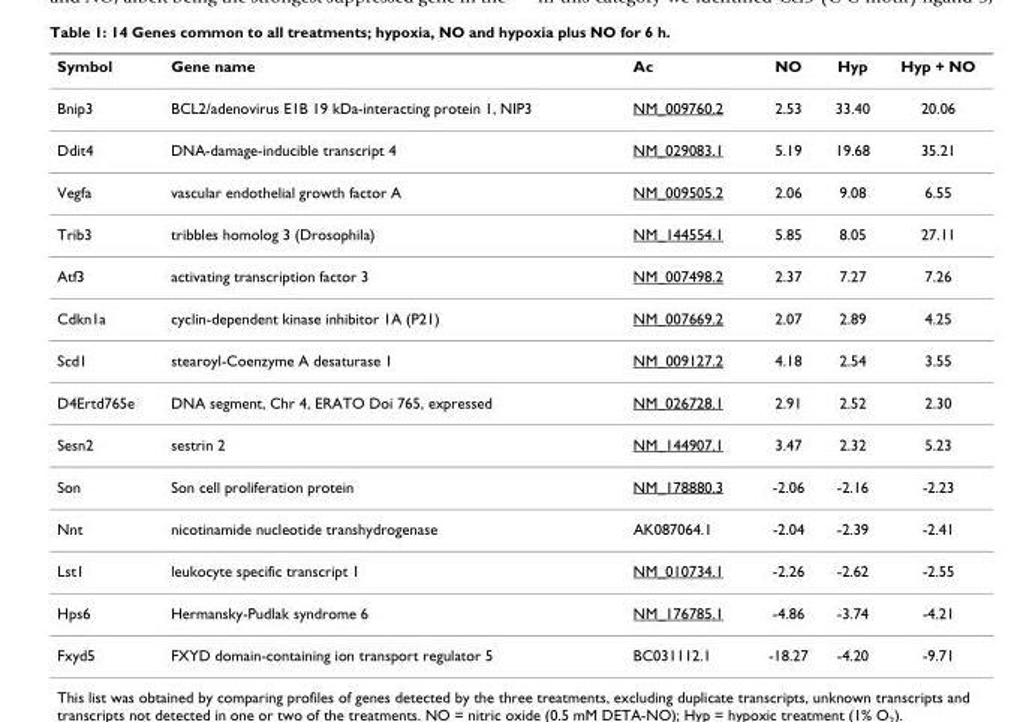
<table><thead><tr><td>Symbol</td><td>Gene name</td><td>Ac</td><td>NO</td><td>Hyp</td><td>Hyp + NO</td></tr></thead><tbody><tr><td>Bnip3</td><td>BCL2/adenovirus E1B 19 kDa-interacting protein 1, NIP3</td><td>NM_009760.2</td><td>2.53</td><td>33.40</td><td>20.06</td></tr><tr><td>Ddit4</td><td>DNA-damage-inducible transcript 4</td><td>NM_029083.1</td><td>5.19</td><td>19.68</td><td>35.21</td></tr><tr><td>Vegfa</td><td>vascular endothelial growth factor A</td><td>NM_009505.2</td><td>2.06</td><td>9.08</td><td>6.55</td></tr><tr><td>Trib3</td><td>tribbles homolog 3 (Drosophila)</td><td>NM_144554.1</td><td>5.85</td><td>8.05</td><td>27.11</td></tr><tr><td>Atf3</td><td>activating transcription factor 3</td><td>NM_007498.2</td><td>2.37</td><td>7.27</td><td>7.26</td></tr><tr><td>Cdkn1a</td><td>cyclin-dependent kinase inhibitor 1A (P21)</td><td>NM_007669.2</td><td>2.07</td><td>2.89</td><td>4.25</td></tr><tr><td>Scd1</td><td>stearoyl-Coenzyme A desaturase 1</td><td>NM_009127.2</td><td>4.18</td><td>2.54</td><td>3.55</td></tr><tr><td>D4Ertd765e</td><td>DNA segment, Chr 4, ERATO Doi 765, expressed</td><td>NM_026728.1</td><td>2.91</td><td>2.52</td><td>2.30</td></tr><tr><td>Sesn2</td><td>sestrin 2</td><td>NM_144907.1</td><td>3.47</td><td>2.32</td><td>5.23</td></tr><tr><td>Son</td><td>Son cell proliferation protein</td><td>NM_178880.3</td><td>-2.06</td><td>-2.16</td><td>-2.23</td></tr><tr><td>Nnt</td><td>nicotinamide nucleotide transhydrogenase</td><td>AK087064.1</td><td>-2.04</td><td>-2.39</td><td>-2.41</td></tr><tr><td>Lst1</td><td>leukocyte specific transcript 1</td><td>NM_010734.1</td><td>-2.26</td><td>-2.62</td><td>-2.55</td></tr><tr><td>Hps6</td><td>Hermansky-Pudlak syndrome 6</td><td>NM_176785.1</td><td>-4.86</td><td>-3.74</td><td>-4.21</td></tr><tr><td>Fxyd5</td><td>FXYD domain-containing ion transport regulator 5</td><td>BC031112.1</td><td>-18.27</td><td>-4.20</td><td>-9.71</td></tr></tbody></table>